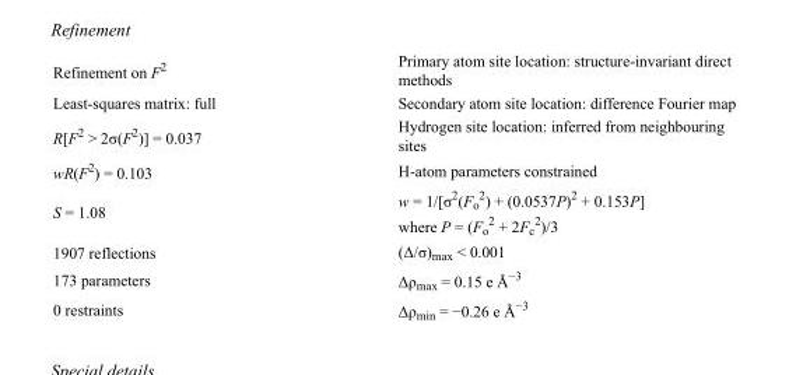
<table><tbody><tr><td>Refinement on F<sup>2</sup></td><td>Primary atom site location: structure-invariant direct methods</td></tr><tr><td>Least-squares matrix: full</td><td>Secondary atom site location: difference Fourier map</td></tr><tr><td>R[F<sup>2</sup> &gt; 2σ(F<sup>2</sup>)] = 0.037</td><td>Hydrogen site location: inferred from neighbouring sites</td></tr><tr><td>wR(F<sup>2</sup>) = 0.103</td><td>H-atom parameters constrained</td></tr><tr><td>S = 1.08</td><td>w = 1/[σ<sup>2</sup>(F<sub>o</sub> <sup>2</sup>) + (0.0537P)<sup>2</sup> + 0.153P] where P = (F<sub>o</sub> <sup>2</sup> + 2F<sub>c</sub> <sup>2</sup>)/3</td></tr><tr><td>1907 reflections</td><td>(Δ/σ)<sub>max</sub> &lt; 0.001</td></tr><tr><td>173 parameters</td><td>Δρ<sub>max</sub> = 0.15 e Å<sup>−3</sup></td></tr><tr><td>0 restraints</td><td>Δρ<sub>min</sub> = −0.26 e Å<sup>−3</sup></td></tr></tbody></table>